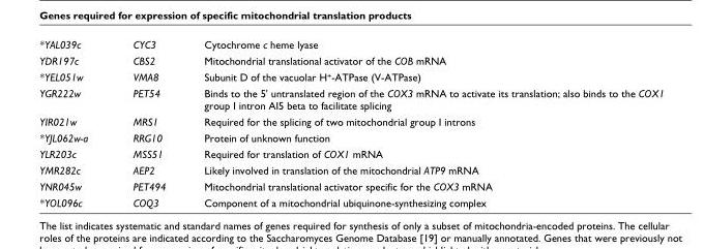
<table><tbody><tr><td>*YAL039c</td><td>CYC3</td><td>Cytochrome c heme lyase</td></tr><tr><td>YDR197c</td><td>CBS2</td><td>Mitochondrial translational activator of the COB mRNA</td></tr><tr><td>*YEL051w</td><td>VMA8</td><td>Subunit D of the vacuolar H<sup>+</sup>-ATPase (V-ATPase)</td></tr><tr><td>YGR222w</td><td>PET54</td><td>Binds to the 5&#x27; untranslated region of the COX3 mRNA to activate its translation; also binds to the COX1 group I intron AI5 beta to facilitate splicing</td></tr><tr><td>YIR021w</td><td>MRS1</td><td>Required for the splicing of two mitochondrial group I introns</td></tr><tr><td>*YJL062w-a</td><td>RRG10</td><td>Protein of unknown function</td></tr><tr><td>YLR203c</td><td>MSS51</td><td>Required for translation of COX1 mRNA</td></tr><tr><td>YMR282c</td><td>AEP2</td><td>Likely involved in translation of the mitochondrial ATP9 mRNA</td></tr><tr><td>YNR045w</td><td>PET494</td><td>Mitochondrial translational activator specific for the COX3 mRNA</td></tr><tr><td>*YOL096c</td><td>COQ3</td><td>Component of a mitochondrial ubiquinone-synthesizing complex</td></tr></tbody></table>